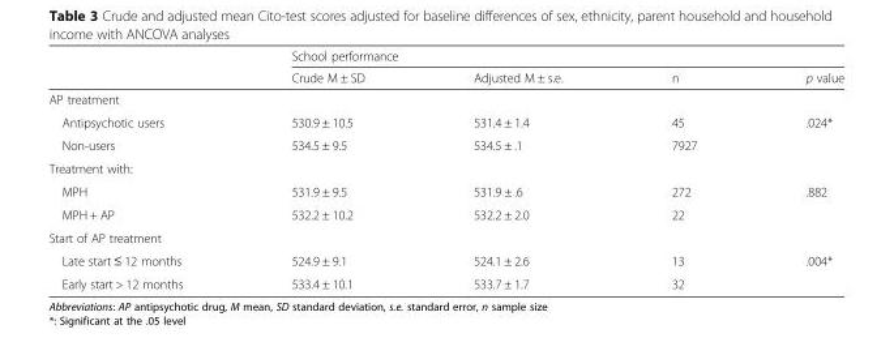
<table><thead><tr><td rowspan="2"></td><td colspan="4">School performance</td></tr><tr><td>Crude M ± SD</td><td>Adjusted M ± s.e.</td><td>n</td><td>p value</td></tr></thead><tbody><tr><td colspan="5">AP treatment</td></tr><tr><td>Antipsychotic users</td><td>530.9 ± 10.5</td><td>531.4 ± 1.4</td><td>45</td><td rowspan="2">.024*</td></tr><tr><td>Non-users</td><td>534.5 ± 9.5</td><td>534.5 ± .1</td><td>7927</td></tr><tr><td colspan="5">Treatment with:</td></tr><tr><td>MPH</td><td>531.9 ± 9.5</td><td>531.9 ± .6</td><td>272</td><td rowspan="2">.882</td></tr><tr><td>MPH + AP</td><td>532.2 ± 10.2</td><td>532.2 ± 2.0</td><td>22</td></tr><tr><td colspan="5">Start of AP treatment</td></tr><tr><td>Late start ≤ 12 months</td><td>524.9 ± 9.1</td><td>524.1 ± 2.6</td><td>13</td><td rowspan="2">.004*</td></tr><tr><td>Early start &gt; 12 months</td><td>533.4 ± 10.1</td><td>533.7 ± 1.7</td><td>32</td></tr></tbody></table>